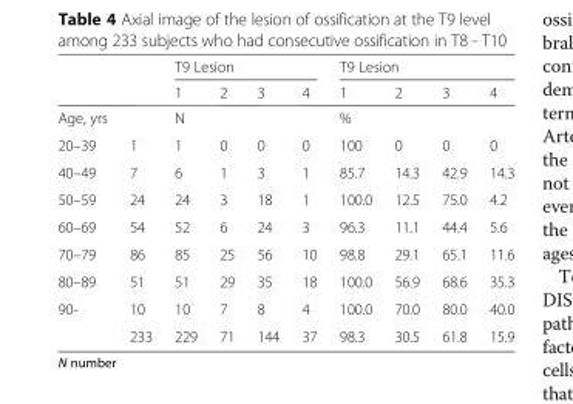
<table><thead><tr><td rowspan="2"></td><td rowspan="2"></td><td colspan="4">T9 Lesion</td><td colspan="4">T9 Lesion</td></tr><tr><td>1</td><td>2</td><td>3</td><td>4</td><td>1</td><td>2</td><td>3</td><td>4</td></tr></thead><tbody><tr><td>Age, yrs</td><td></td><td colspan="4">N</td><td colspan="4">%</td></tr><tr><td>20–39</td><td>1</td><td>1</td><td>0</td><td>0</td><td>0</td><td>100</td><td>0</td><td>0</td><td>0</td></tr><tr><td>40–49</td><td>7</td><td>6</td><td>1</td><td>3</td><td>1</td><td>85.7</td><td>14.3</td><td>42.9</td><td>14.3</td></tr><tr><td>50–59</td><td>24</td><td>24</td><td>3</td><td>18</td><td>1</td><td>100.0</td><td>12.5</td><td>75.0</td><td>4.2</td></tr><tr><td>60–69</td><td>54</td><td>52</td><td>6</td><td>24</td><td>3</td><td>96.3</td><td>11.1</td><td>44.4</td><td>5.6</td></tr><tr><td>70–79</td><td>86</td><td>85</td><td>25</td><td>56</td><td>10</td><td>98.8</td><td>29.1</td><td>65.1</td><td>11.6</td></tr><tr><td>80–89</td><td>51</td><td>51</td><td>29</td><td>35</td><td>18</td><td>100.0</td><td>56.9</td><td>68.6</td><td>35.3</td></tr><tr><td rowspan="2">90-</td><td>10</td><td>10</td><td>7</td><td>8</td><td>4</td><td>100.0</td><td>70.0</td><td>80.0</td><td>40.0</td></tr><tr><td>233</td><td>229</td><td>71</td><td>144</td><td>37</td><td>98.3</td><td>30.5</td><td>61.8</td><td>15.9</td></tr></tbody></table>